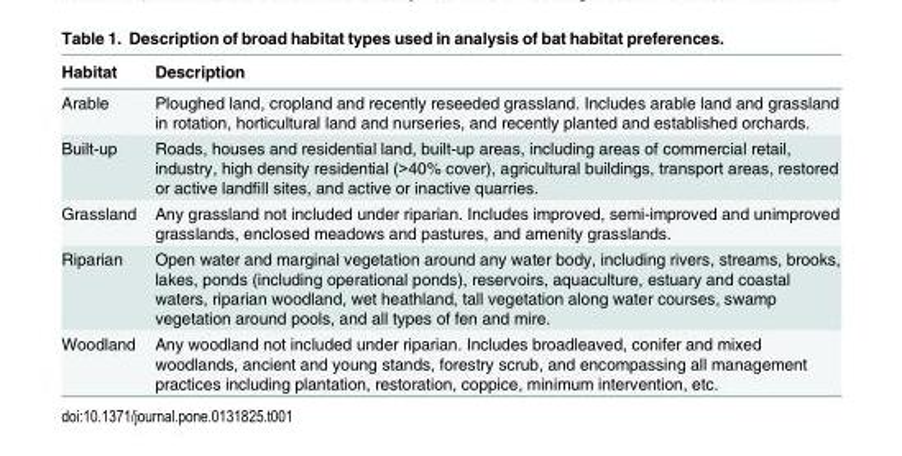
<table><thead><tr><td>Habitat</td><td>Description</td></tr></thead><tbody><tr><td>Arable</td><td>Ploughed land, cropland and recently reseeded grassland. Includes arable land and grassland in rotation, horticultural land and nurseries, and recently planted and established orchards.</td></tr><tr><td>Built-up</td><td>Roads, houses and residential land, built-up areas, including areas of commercial retail, industry, high density residential (&gt;40% cover), agricultural buildings, transport areas, restored or active landfill sites, and active or inactive quarries.</td></tr><tr><td>Grassland</td><td>Any grassland not included under riparian. Includes improved, semi-improved and unimproved grasslands, enclosed meadows and pastures, and amenity grasslands.</td></tr><tr><td>Riparian</td><td>Open water and marginal vegetation around any water body, including rivers, streams, brooks, lakes, ponds (including operational ponds), reservoirs, aquaculture, estuary and coastal waters, riparian woodland, wet heathland, tall vegetation along water courses, swamp vegetation around pools, and all types of fen and mire.</td></tr><tr><td>Woodland</td><td>Any woodland not included under riparian. Includes broadleaved, conifer and mixed woodlands, ancient and young stands, forestry scrub, and encompassing all management practices including plantation, restoration, coppice, minimum intervention, etc.</td></tr></tbody></table>